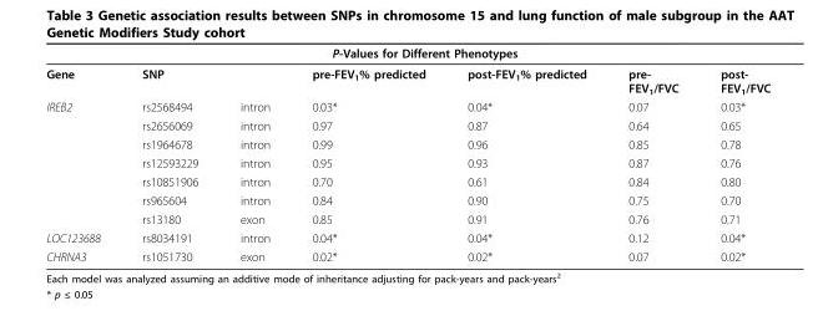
<table><thead><tr><td colspan="7">P-Values for Different Phenotypes</td></tr><tr><td>Gene</td><td>SNP</td><td></td><td>pre-FEV<sub>1</sub>% predicted</td><td>post-FEV<sub>1</sub>% predicted</td><td>pre- FEV<sub>1</sub>/FVC</td><td>post- FEV<sub>1</sub>/FVC</td></tr></thead><tbody><tr><td rowspan="7">IREB2</td><td>rs2568494</td><td>intron</td><td>0.03*</td><td>0.04*</td><td>0.07</td><td>0.03*</td></tr><tr><td>rs2656069</td><td>intron</td><td>0.97</td><td>0.87</td><td>0.64</td><td>0.65</td></tr><tr><td>rs1964678</td><td>intron</td><td>0.99</td><td>0.96</td><td>0.85</td><td>0.78</td></tr><tr><td>rs12593229</td><td>intron</td><td>0.95</td><td>0.93</td><td>0.87</td><td>0.76</td></tr><tr><td>rs10851906</td><td>intron</td><td>0.70</td><td>0.61</td><td>0.84</td><td>0.80</td></tr><tr><td>rs965604</td><td>intron</td><td>0.84</td><td>0.90</td><td>0.75</td><td>0.70</td></tr><tr><td>rs13180</td><td>exon</td><td>0.85</td><td>0.91</td><td>0.76</td><td>0.71</td></tr><tr><td>LOC123688</td><td>rs8034191</td><td>intron</td><td>0.04*</td><td>0.04*</td><td>0.12</td><td>0.04*</td></tr><tr><td>CHRNA3</td><td>rs1051730</td><td>exon</td><td>0.02*</td><td>0.02*</td><td>0.07</td><td>0.02*</td></tr></tbody></table>